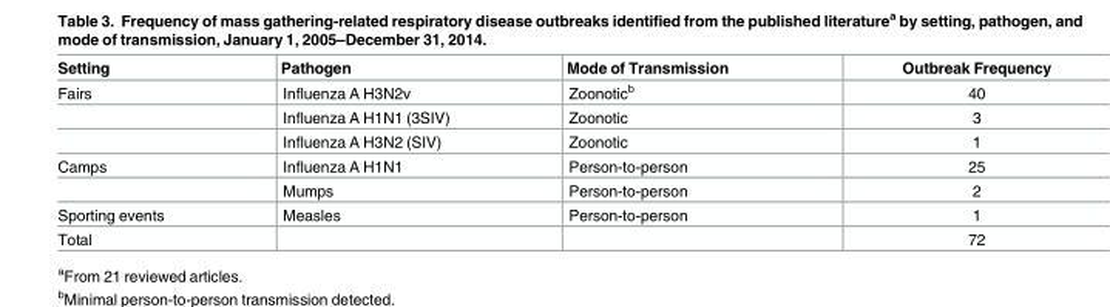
<table><thead><tr><td>Setting</td><td>Pathogen</td><td>Mode of Transmission</td><td>Outbreak Frequency</td></tr></thead><tbody><tr><td rowspan="3">Fairs</td><td>Influenza A H3N2v</td><td>Zoonotic<sup>b</sup></td><td>40</td></tr><tr><td>Influenza A H1N1 (3SIV)</td><td>Zoonotic</td><td>3</td></tr><tr><td>Influenza A H3N2 (SIV)</td><td>Zoonotic</td><td>1</td></tr><tr><td rowspan="2">Camps</td><td>Influenza A H1N1</td><td>Person-to-person</td><td>25</td></tr><tr><td>Mumps</td><td>Person-to-person</td><td>2</td></tr><tr><td>Sporting events</td><td>Measles</td><td>Person-to-person</td><td>1</td></tr><tr><td>Total</td><td></td><td></td><td>72</td></tr></tbody></table>